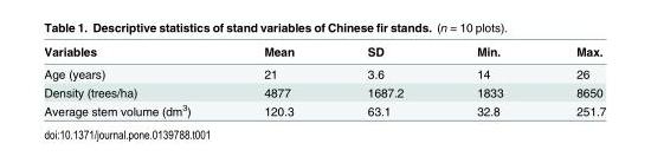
<table><thead><tr><td>Variables</td><td>Mean</td><td>SD</td><td>Min.</td><td>Max.</td></tr></thead><tbody><tr><td>Age (years)</td><td>21</td><td>3.6</td><td>14</td><td>26</td></tr><tr><td>Density (trees/ha)</td><td>4877</td><td>1687.2</td><td>1833</td><td>8650</td></tr><tr><td>Average stem volume (dm<sup>3</sup>)</td><td>120.3</td><td>63.1</td><td>32.8</td><td>251.7</td></tr></tbody></table>